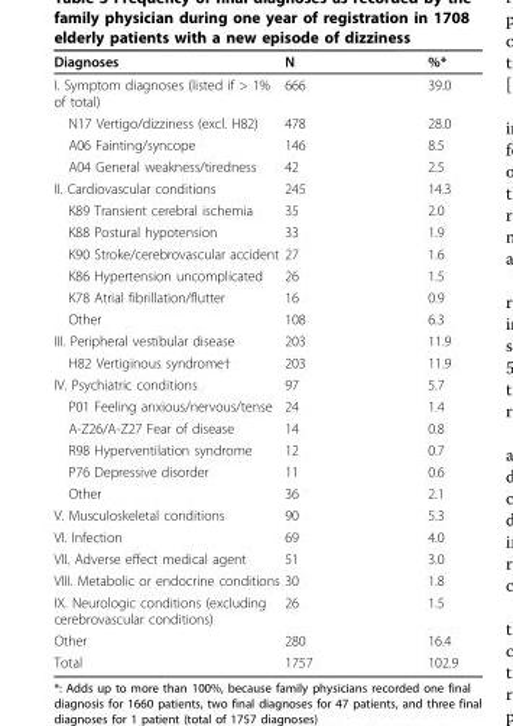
<table><thead><tr><td>Diagnoses</td><td>N</td><td>%*</td></tr></thead><tbody><tr><td>I. Symptom diagnoses (listed if &gt; 1% of total)</td><td>666</td><td>39.0</td></tr><tr><td>N17 Vertigo/dizziness (excl. H82)</td><td>478</td><td>28.0</td></tr><tr><td>A06 Fainting/syncope</td><td>146</td><td>8.5</td></tr><tr><td>A04 General weakness/tiredness</td><td>42</td><td>2.5</td></tr><tr><td>II. Cardiovascular conditions</td><td>245</td><td>14.3</td></tr><tr><td>K89 Transient cerebral ischemia</td><td>35</td><td>2.0</td></tr><tr><td>K88 Postural hypotension</td><td>33</td><td>1.9</td></tr><tr><td>K90 Stroke/cerebrovascular accident</td><td>27</td><td>1.6</td></tr><tr><td>K86 Hypertension uncomplicated</td><td>26</td><td>1.5</td></tr><tr><td>K78 Atrial fibrillation/flutter</td><td>16</td><td>0.9</td></tr><tr><td>Other</td><td>108</td><td>6.3</td></tr><tr><td>III. Peripheral vestibular disease</td><td>203</td><td>11.9</td></tr><tr><td>H82 Vertiginous syndrome†</td><td>203</td><td>11.9</td></tr><tr><td>IV. Psychiatric conditions</td><td>97</td><td>5.7</td></tr><tr><td>P01 Feeling anxious/nervous/tense</td><td>24</td><td>1.4</td></tr><tr><td>A-Z26/A-Z27 Fear of disease</td><td>14</td><td>0.8</td></tr><tr><td>R98 Hyperventilation syndrome</td><td>12</td><td>0.7</td></tr><tr><td>P76 Depressive disorder</td><td>11</td><td>0.6</td></tr><tr><td>Other</td><td>36</td><td>2.1</td></tr><tr><td>V. Musculoskeletal conditions</td><td>90</td><td>5.3</td></tr><tr><td>VI. Infection</td><td>69</td><td>4.0</td></tr><tr><td>VII. Adverse effect medical agent</td><td>51</td><td>3.0</td></tr><tr><td>VIII. Metabolic or endocrine conditions</td><td>30</td><td>1.8</td></tr><tr><td>IX. Neurologic conditions (excluding cerebrovascular conditions)</td><td>26</td><td>1.5</td></tr><tr><td>Other</td><td>280</td><td>16.4</td></tr><tr><td>Total</td><td>1757</td><td>102.9</td></tr></tbody></table>